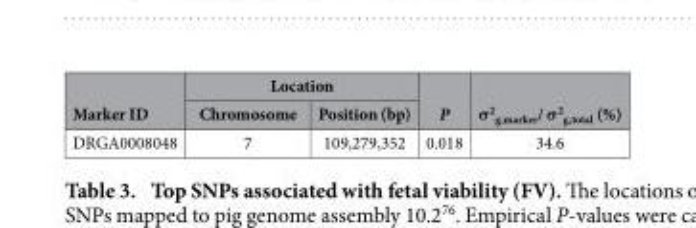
<table><thead><tr><td rowspan="2">Marker ID</td><td colspan="2">Location</td><td rowspan="2">P</td><td rowspan="2">σ<sup>2</sup> <sub>g,marker</sub>/ σ<sup>2</sup> <sub>g,total</sub> (%)</td></tr><tr><td>Chromosome</td><td>Position (bp)</td></tr></thead><tbody><tr><td>DRGA0008048</td><td>7</td><td>109,279,352</td><td>0.018</td><td>34.6</td></tr></tbody></table>